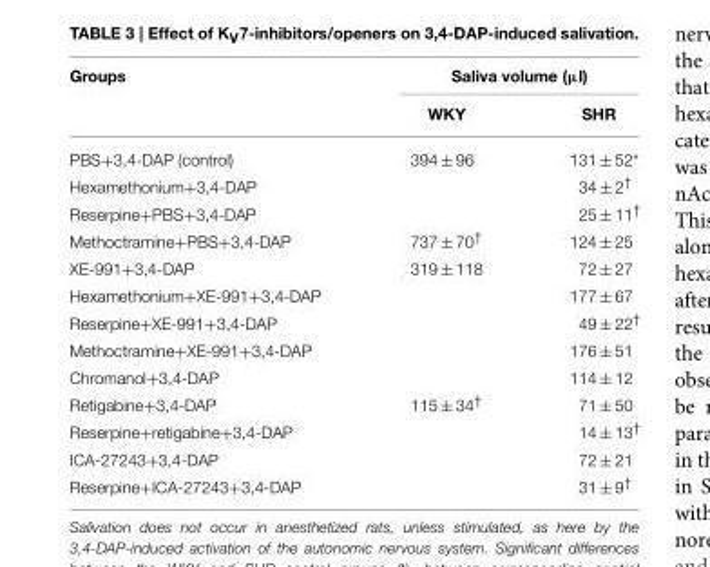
<table><thead><tr><td rowspan="2">Groups</td><td colspan="2">Saliva volume (µl)</td></tr><tr><td>WKY</td><td>SHR</td></tr></thead><tbody><tr><td>PBS+3,4-DAP (control)</td><td>394 ± 96</td><td>131 ± 52*</td></tr><tr><td>Hexamethonium+3,4-DAP</td><td></td><td>34 ± 2<sup>†</sup></td></tr><tr><td>Reserpine+PBS+3,4-DAP</td><td></td><td>25 ± 11<sup>†</sup></td></tr><tr><td>Methoctramine+PBS+3,4-DAP</td><td>737 ± 70<sup>†</sup></td><td>124 ± 25</td></tr><tr><td>XE-991+3,4-DAP</td><td>319 ± 118</td><td>72 ± 27</td></tr><tr><td>Hexamethonium+XE-991+3,4-DAP</td><td></td><td>177 ± 67</td></tr><tr><td>Reserpine+XE-991+3,4-DAP</td><td></td><td>49 ± 22<sup>†</sup></td></tr><tr><td>Methoctramine+XE-991+3,4-DAP</td><td></td><td>176 ± 51</td></tr><tr><td>Chromanol+3,4-DAP</td><td></td><td>114 ± 12</td></tr><tr><td>Retigabine+3,4-DAP</td><td>115 ± 34<sup>†</sup></td><td>71 ± 50</td></tr><tr><td>Reserpine+retigabine+3,4-DAP</td><td></td><td>14 ± 13<sup>†</sup></td></tr><tr><td>ICA-27243+3,4-DAP</td><td></td><td>72 ± 21</td></tr><tr><td>Reserpine+ICA-27243+3,4-DAP</td><td></td><td>31 ± 9<sup>†</sup></td></tr></tbody></table>